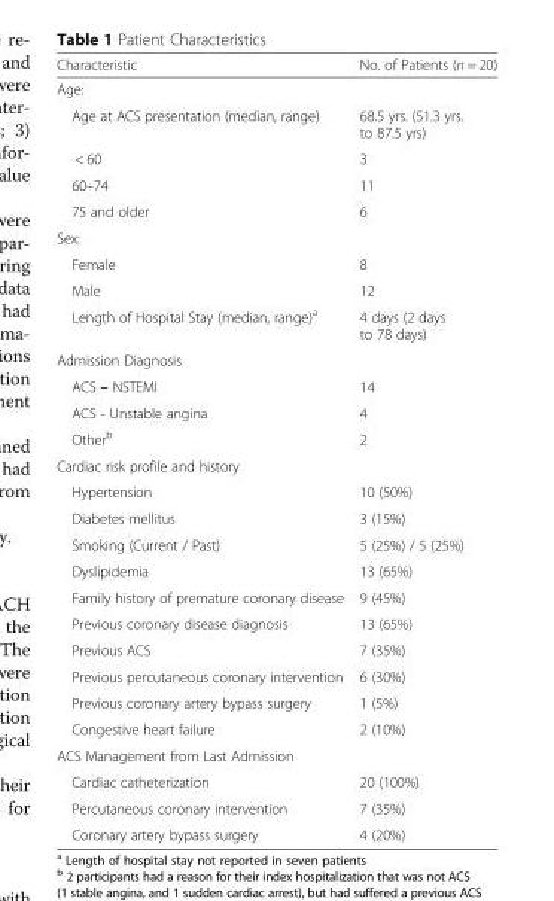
<table><thead><tr><td>Characteristic</td><td>No. of Patients (n = 20)</td></tr></thead><tbody><tr><td colspan="2">Age:</td></tr><tr><td>Age at ACS presentation (median, range)</td><td>68.5 yrs. (51.3 yrs. to 87.5 yrs)</td></tr><tr><td>&lt; 60</td><td>3</td></tr><tr><td>60–74</td><td>11</td></tr><tr><td>75 and older</td><td>6</td></tr><tr><td colspan="2">Sex:</td></tr><tr><td>Female</td><td>8</td></tr><tr><td>Male</td><td>12</td></tr><tr><td>Length of Hospital Stay (median, range)<sup>a</sup></td><td>4 days (2 days to 78 days)</td></tr><tr><td colspan="2">Admission Diagnosis</td></tr><tr><td>ACS – NSTEMI</td><td>14</td></tr><tr><td>ACS - Unstable angina</td><td>4</td></tr><tr><td>Other<sup>b</sup></td><td>2</td></tr><tr><td colspan="2">Cardiac risk profile and history</td></tr><tr><td>Hypertension</td><td>10 (50%)</td></tr><tr><td>Diabetes mellitus</td><td>3 (15%)</td></tr><tr><td>Smoking (Current / Past)</td><td>5 (25%) / 5 (25%)</td></tr><tr><td>Dyslipidemia</td><td>13 (65%)</td></tr><tr><td>Family history of premature coronary disease</td><td>9 (45%)</td></tr><tr><td>Previous coronary disease diagnosis</td><td>13 (65%)</td></tr><tr><td>Previous ACS</td><td>7 (35%)</td></tr><tr><td>Previous percutaneous coronary intervention</td><td>6 (30%)</td></tr><tr><td>Previous coronary artery bypass surgery</td><td>1 (5%)</td></tr><tr><td>Congestive heart failure</td><td>2 (10%)</td></tr><tr><td colspan="2">ACS Management from Last Admission</td></tr><tr><td>Cardiac catheterization</td><td>20 (100%)</td></tr><tr><td>Percutaneous coronary intervention</td><td>7 (35%)</td></tr><tr><td>Coronary artery bypass surgery</td><td>4 (20%)</td></tr></tbody></table>